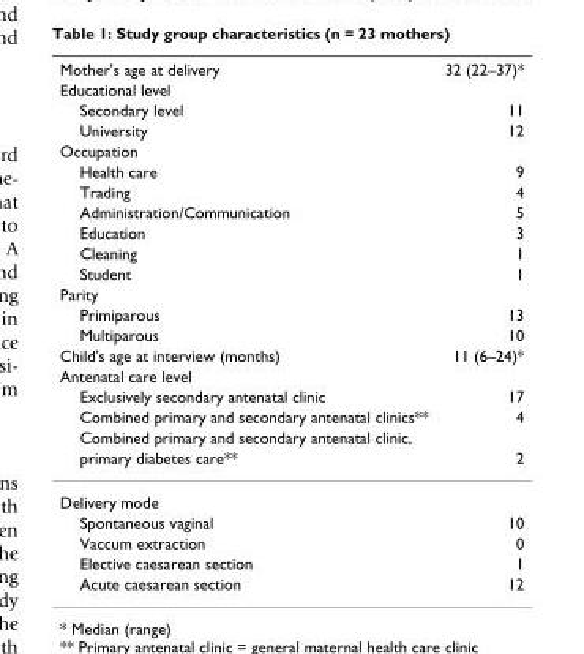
<table><thead><tr><td rowspan="20">Mother&#x27;s age at delivery Educational level Secondary level University Occupation Health care Trading Administration/Communication Education Cleaning Student Parity Primiparous Multiparous Child&#x27;s age at interview (months) Antenatal care level Exclusively secondary antenatal clinic Combined primary and secondary antenatal clinics** Combined primary and secondary antenatal clinic, primary diabetes care**</td><td rowspan="20">32 (22–37)* 11 12 9 4 5 3 1 1 13 10 11 (6–24)* 17 4 2</td></tr><tr></tr><tr></tr><tr></tr><tr></tr><tr></tr><tr></tr><tr></tr><tr></tr><tr></tr><tr></tr><tr></tr><tr></tr><tr></tr><tr></tr><tr></tr><tr></tr><tr></tr><tr></tr><tr></tr></thead><tbody><tr><td colspan="2">Delivery mode</td></tr><tr><td>Spontaneous vaginal</td><td>10</td></tr><tr><td>Vaccum extraction</td><td>0</td></tr><tr><td>Elective caesarean section</td><td>1</td></tr><tr><td>Acute caesarean section</td><td>12</td></tr></tbody></table>